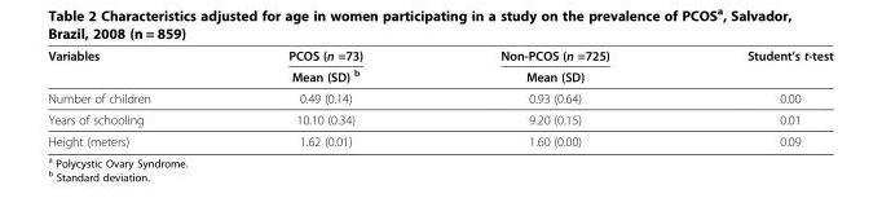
<table><thead><tr><td rowspan="2">Variables</td><td rowspan="2">PCOS (n =73) Mean (SD) <sup>b</sup></td><td rowspan="2">Non-PCOS (n =725) Mean (SD)</td><td rowspan="2">Student’s t-test</td></tr><tr></tr></thead><tbody><tr><td>Number of children</td><td>0.49 (0.14)</td><td>0.93 (0.64)</td><td>0.00</td></tr><tr><td>Years of schooling</td><td>10.10 (0.34)</td><td>9.20 (0.15)</td><td>0.01</td></tr><tr><td>Height (meters)</td><td>1.62 (0.01)</td><td>1.60 (0.00)</td><td>0.09</td></tr></tbody></table>